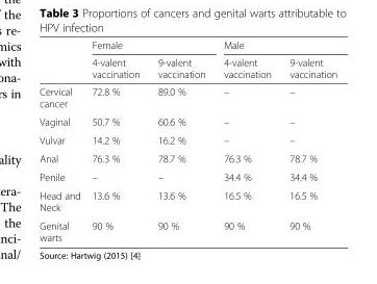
<table><thead><tr><td rowspan="2"></td><td colspan="2">Female</td><td colspan="2">Male</td></tr><tr><td>4-valent vaccination</td><td>9-valent vaccination</td><td>4-valent vaccination</td><td>9-valent vaccination</td></tr></thead><tbody><tr><td>Cervical cancer</td><td>72.8 %</td><td>89.0 %</td><td>–</td><td>–</td></tr><tr><td>Vaginal</td><td>50.7 %</td><td>60.6 %</td><td>–</td><td>–</td></tr><tr><td>Vulvar</td><td>14.2 %</td><td>16.2 %</td><td>–</td><td>–</td></tr><tr><td>Anal</td><td>76.3 %</td><td>78.7 %</td><td>76.3 %</td><td>78.7 %</td></tr><tr><td>Penile</td><td>–</td><td>–</td><td>34.4 %</td><td>34.4 %</td></tr><tr><td>Head and Neck</td><td>13.6 %</td><td>13.6 %</td><td>16.5 %</td><td>16.5 %</td></tr><tr><td>Genital warts</td><td>90 %</td><td>90 %</td><td>90 %</td><td>90 %</td></tr></tbody></table>